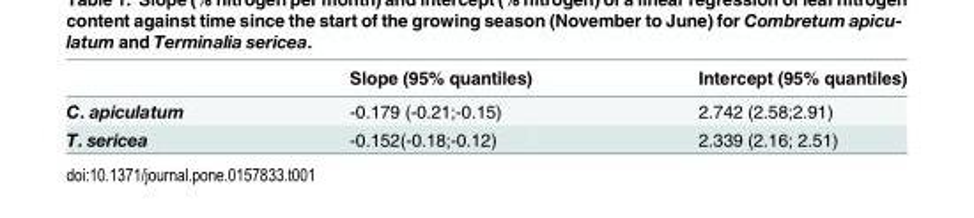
<table><thead><tr><td></td><td>Slope (95% quantiles)</td><td>Intercept (95% quantiles)</td></tr></thead><tbody><tr><td>C. apiculatum</td><td>-0.179 (-0.21;-0.15)</td><td>2.742 (2.58;2.91)</td></tr><tr><td>T. sericea</td><td>-0.152(-0.18;-0.12)</td><td>2.339 (2.16; 2.51)</td></tr></tbody></table>